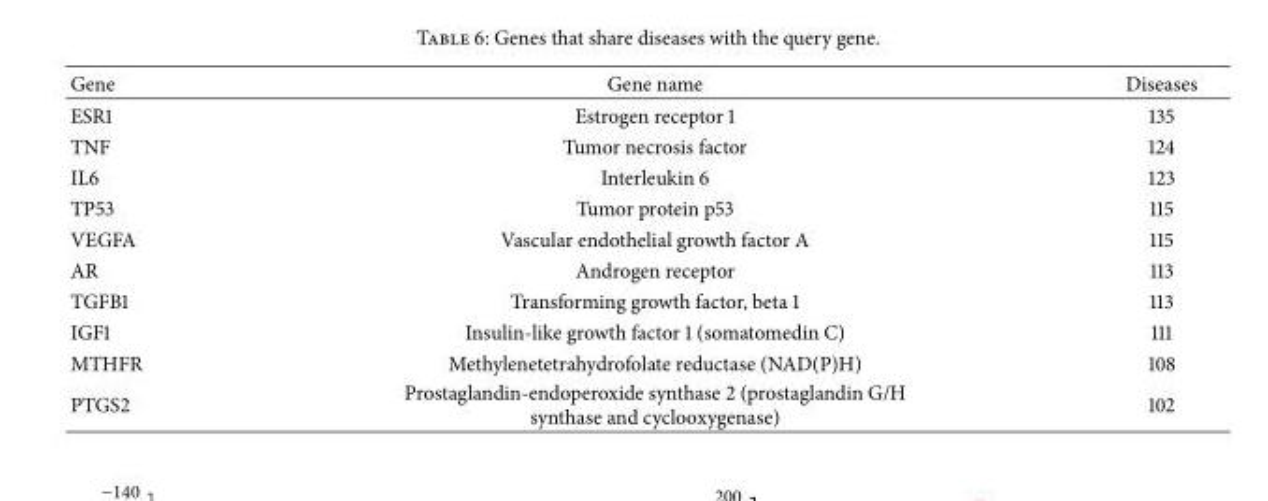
<table><thead><tr><td>Gene</td><td>Gene name</td><td>Diseases</td></tr></thead><tbody><tr><td>ESR1</td><td>Estrogen receptor 1</td><td>135</td></tr><tr><td>TNF</td><td>Tumor necrosis factor</td><td>124</td></tr><tr><td>IL6</td><td>Interleukin 6</td><td>123</td></tr><tr><td>TP53</td><td>Tumor protein p53</td><td>115</td></tr><tr><td>VEGFA</td><td>Vascular endothelial growth factor A</td><td>115</td></tr><tr><td>AR</td><td>Androgen receptor</td><td>113</td></tr><tr><td>TGFB1</td><td>Transforming growth factor, beta 1</td><td>113</td></tr><tr><td>IGF1</td><td>Insulin-like growth factor 1 (somatomedin C)</td><td>111</td></tr><tr><td>MTHFR</td><td>Methylenetetrahydrofolate reductase (NAD(P)H)</td><td>108</td></tr><tr><td>PTGS2</td><td>Prostaglandin-endoperoxide synthase 2 (prostaglandin G/H synthase and cyclooxygenase)</td><td>102</td></tr></tbody></table>